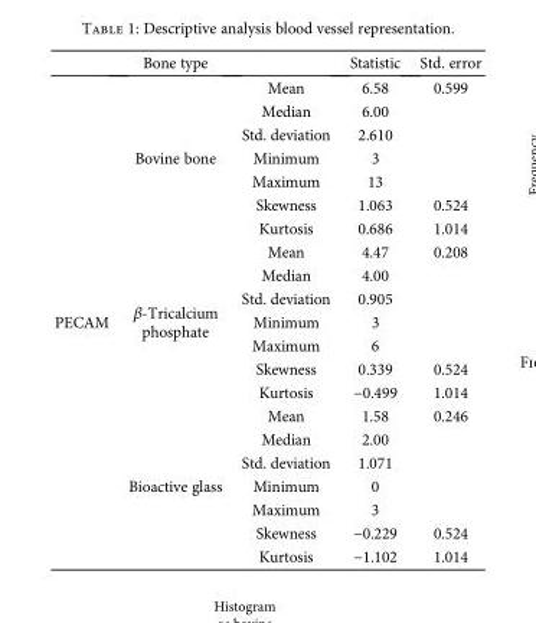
<table><thead><tr><td></td><td>Bone type</td><td></td><td>Statistic</td><td>Std. error</td></tr></thead><tbody><tr><td rowspan="21">PECAM</td><td rowspan="7">Bovine bone</td><td>Mean</td><td>6.58</td><td>0.599</td></tr><tr><td>Median</td><td>6.00</td><td></td></tr><tr><td>Std. deviation</td><td>2.610</td><td></td></tr><tr><td>Minimum</td><td>3</td><td></td></tr><tr><td>Maximum</td><td>13</td><td></td></tr><tr><td>Skewness</td><td>1.063</td><td>0.524</td></tr><tr><td>Kurtosis</td><td>0.686</td><td>1.014</td></tr><tr><td rowspan="7">β-Tricalcium phosphate</td><td>Mean</td><td>4.47</td><td>0.208</td></tr><tr><td>Median</td><td>4.00</td><td></td></tr><tr><td>Std. deviation</td><td>0.905</td><td></td></tr><tr><td>Minimum</td><td>3</td><td></td></tr><tr><td>Maximum</td><td>6</td><td></td></tr><tr><td>Skewness</td><td>0.339</td><td>0.524</td></tr><tr><td>Kurtosis</td><td>−0.499</td><td>1.014</td></tr><tr><td rowspan="7">Bioactive glass</td><td>Mean</td><td>1.58</td><td>0.246</td></tr><tr><td>Median</td><td>2.00</td><td></td></tr><tr><td>Std. deviation</td><td>1.071</td><td></td></tr><tr><td>Minimum</td><td>0</td><td></td></tr><tr><td>Maximum</td><td>3</td><td></td></tr><tr><td>Skewness</td><td>−0.229</td><td>0.524</td></tr><tr><td>Kurtosis</td><td>−1.102</td><td>1.014</td></tr></tbody></table>